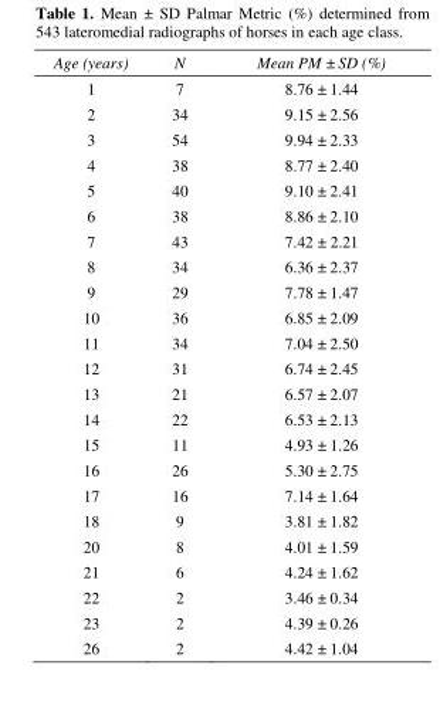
<table><thead><tr><td>Age (years)</td><td>N</td><td>Mean PM ± SD (%)</td></tr></thead><tbody><tr><td>1</td><td>7</td><td>8.76 ± 1.44</td></tr><tr><td>2</td><td>34</td><td>9.15 ± 2.56</td></tr><tr><td>3</td><td>54</td><td>9.94 ± 2.33</td></tr><tr><td>4</td><td>38</td><td>8.77 ± 2.40</td></tr><tr><td>5</td><td>40</td><td>9.10 ± 2.41</td></tr><tr><td>6</td><td>38</td><td>8.86 ± 2.10</td></tr><tr><td>7</td><td>43</td><td>7.42 ± 2.21</td></tr><tr><td>8</td><td>34</td><td>6.36 ± 2.37</td></tr><tr><td>9</td><td>29</td><td>7.78 ± 1.47</td></tr><tr><td>10</td><td>36</td><td>6.85 ± 2.09</td></tr><tr><td>11</td><td>34</td><td>7.04 ± 2.50</td></tr><tr><td>12</td><td>31</td><td>6.74 ± 2.45</td></tr><tr><td>13</td><td>21</td><td>6.57 ± 2.07</td></tr><tr><td>14</td><td>22</td><td>6.53 ± 2.13</td></tr><tr><td>15</td><td>11</td><td>4.93 ± 1.26</td></tr><tr><td>16</td><td>26</td><td>5.30 ± 2.75</td></tr><tr><td>17</td><td>16</td><td>7.14 ± 1.64</td></tr><tr><td>18</td><td>9</td><td>3.81 ± 1.82</td></tr><tr><td>20</td><td>8</td><td>4.01 ± 1.59</td></tr><tr><td>21</td><td>6</td><td>4.24 ± 1.62</td></tr><tr><td>22</td><td>2</td><td>3.46 ± 0.34</td></tr><tr><td>23</td><td>2</td><td>4.39 ± 0.26</td></tr><tr><td>26</td><td>2</td><td>4.42 ± 1.04</td></tr></tbody></table>